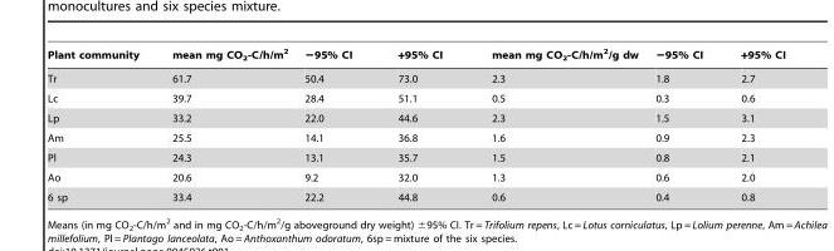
<table><thead><tr><td>Plant community</td><td>mean mg CO<sub>2</sub>-C/h/m<sup>2</sup></td><td>−95% CI</td><td>+95% CI</td><td>mean mg CO<sub>2</sub>-C/h/m<sup>2</sup>/g dw</td><td>−95% CI</td><td>+95% CI</td></tr></thead><tbody><tr><td>Tr</td><td>61.7</td><td>50.4</td><td>73.0</td><td>2.3</td><td>1.8</td><td>2.7</td></tr><tr><td>Lc</td><td>39.7</td><td>28.4</td><td>51.1</td><td>0.5</td><td>0.3</td><td>0.6</td></tr><tr><td>Lp</td><td>33.2</td><td>22.0</td><td>44.6</td><td>2.3</td><td>1.5</td><td>3.1</td></tr><tr><td>Am</td><td>25.5</td><td>14.1</td><td>36.8</td><td>1.6</td><td>0.9</td><td>2.3</td></tr><tr><td>Pl</td><td>24.3</td><td>13.1</td><td>35.7</td><td>1.5</td><td>0.8</td><td>2.1</td></tr><tr><td>Ao</td><td>20.6</td><td>9.2</td><td>32.0</td><td>1.3</td><td>0.6</td><td>2.0</td></tr><tr><td>6 sp</td><td>33.4</td><td>22.2</td><td>44.8</td><td>0.6</td><td>0.4</td><td>0.8</td></tr></tbody></table>